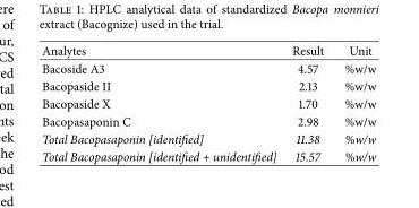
<table><thead><tr><td>Analytes</td><td>Result</td><td>Unit</td></tr></thead><tbody><tr><td>Bacoside A3</td><td>4.57</td><td>%w/w</td></tr><tr><td>Bacopaside II</td><td>2.13</td><td>%w/w</td></tr><tr><td>Bacopaside X</td><td>1.70</td><td>%w/w</td></tr><tr><td>Bacopasaponin C</td><td>2.98</td><td>%w/w</td></tr><tr><td>Total Bacopasaponin [identified]</td><td>11.38</td><td>%w/w</td></tr><tr><td>Total Bacopasaponin [identified + unidentified]</td><td>15.57</td><td>%w/w</td></tr></tbody></table>